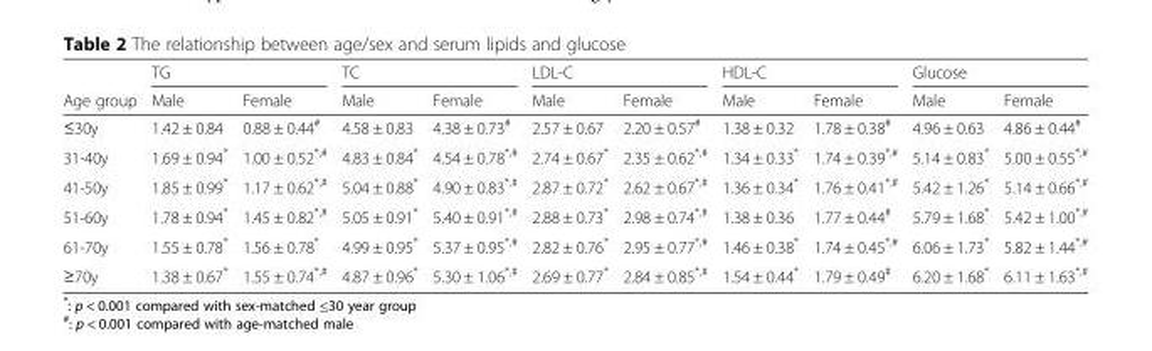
<table><thead><tr><td rowspan="2">Age group</td><td colspan="2">TG</td><td colspan="2">TC</td><td colspan="2">LDL-C</td><td colspan="2">HDL-C</td><td colspan="2">Glucose</td></tr><tr><td>Male</td><td>Female</td><td>Male</td><td>Female</td><td>Male</td><td>Female</td><td>Male</td><td>Female</td><td>Male</td><td>Female</td></tr></thead><tbody><tr><td>≤30y</td><td>1.42 ± 0.84</td><td>0.88 ± 0.44<sup>#</sup></td><td>4.58 ± 0.83</td><td>4.38 ± 0.73<sup>#</sup></td><td>2.57 ± 0.67</td><td>2.20 ± 0.57<sup>#</sup></td><td>1.38 ± 0.32</td><td>1.78 ± 0.38<sup>#</sup></td><td>4.96 ± 0.63</td><td>4.86 ± 0.44<sup>#</sup></td></tr><tr><td>31-40y</td><td>1.69 ± 0.94*</td><td>1.00 ± 0.52<sup>*,#</sup></td><td>4.83 ± 0.84*</td><td>4.54 ± 0.78<sup>*,#</sup></td><td>2.74 ± 0.67*</td><td>2.35 ± 0.62<sup>*,#</sup></td><td>1.34 ± 0.33*</td><td>1.74 ± 0.39<sup>*,#</sup></td><td>5.14 ± 0.83*</td><td>5.00 ± 0.55<sup>*,#</sup></td></tr><tr><td>41-50y</td><td>1.85 ± 0.99*</td><td>1.17 ± 0.62<sup>*,#</sup></td><td>5.04 ± 0.88*</td><td>4.90 ± 0.83<sup>*,#</sup></td><td>2.87 ± 0.72*</td><td>2.62 ± 0.67<sup>*,#</sup></td><td>1.36 ± 0.34*</td><td>1.76 ± 0.41<sup>*,#</sup></td><td>5.42 ± 1.26*</td><td>5.14 ± 0.66<sup>*,#</sup></td></tr><tr><td>51-60y</td><td>1.78 ± 0.94*</td><td>1.45 ± 0.82<sup>*,#</sup></td><td>5.05 ± 0.91*</td><td>5.40 ± 0.91<sup>*,#</sup></td><td>2.88 ± 0.73*</td><td>2.98 ± 0.74<sup>*,#</sup></td><td>1.38 ± 0.36</td><td>1.77 ± 0.44<sup>#</sup></td><td>5.79 ± 1.68*</td><td>5.42 ± 1.00<sup>*,#</sup></td></tr><tr><td>61-70y</td><td>1.55 ± 0.78*</td><td>1.56 ± 0.78*</td><td>4.99 ± 0.95*</td><td>5.37 ± 0.95<sup>*,#</sup></td><td>2.82 ± 0.76*</td><td>2.95 ± 0.77<sup>*,#</sup></td><td>1.46 ± 0.38*</td><td>1.74 ± 0.45<sup>*,#</sup></td><td>6.06 ± 1.73*</td><td>5.82 ± 1.44<sup>*,#</sup></td></tr><tr><td>≥70y</td><td>1.38 ± 0.67*</td><td>1.55 ± 0.74<sup>*,#</sup></td><td>4.87 ± 0.96*</td><td>5.30 ± 1.06<sup>*,#</sup></td><td>2.69 ± 0.77*</td><td>2.84 ± 0.85<sup>*,#</sup></td><td>1.54 ± 0.44*</td><td>1.79 ± 0.49<sup>#</sup></td><td>6.20 ± 1.68*</td><td>6.11 ± 1.63<sup>*,#</sup></td></tr></tbody></table>